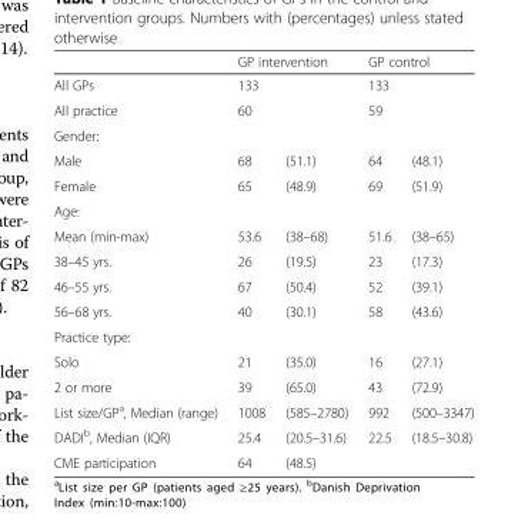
<table><thead><tr><td rowspan="2">All GPs</td><td colspan="2">GP intervention</td><td colspan="2">GP control</td></tr><tr><td>133</td><td></td><td>133</td><td></td></tr></thead><tbody><tr><td>All practice</td><td>60</td><td></td><td>59</td><td></td></tr><tr><td colspan="5">Gender:</td></tr><tr><td>Male</td><td>68</td><td>(51.1)</td><td>64</td><td>(48.1)</td></tr><tr><td>Female</td><td>65</td><td>(48.9)</td><td>69</td><td>(51.9)</td></tr><tr><td colspan="5">Age:</td></tr><tr><td>Mean (min-max)</td><td>53.6</td><td>(38–68)</td><td>51.6</td><td>(38–65)</td></tr><tr><td>38–45 yrs.</td><td>26</td><td>(19.5)</td><td>23</td><td>(17.3)</td></tr><tr><td>46–55 yrs.</td><td>67</td><td>(50.4)</td><td>52</td><td>(39.1)</td></tr><tr><td>56–68 yrs.</td><td>40</td><td>(30.1)</td><td>58</td><td>(43.6)</td></tr><tr><td colspan="5">Practice type:</td></tr><tr><td>Solo</td><td>21</td><td>(35.0)</td><td>16</td><td>(27.1)</td></tr><tr><td>2 or more</td><td>39</td><td>(65.0)</td><td>43</td><td>(72.9)</td></tr><tr><td>List size/GP<sup>a</sup>, Median (range)</td><td>1008</td><td>(585–2780)</td><td>992</td><td>(500–3347)</td></tr><tr><td>DADI<sup>b</sup>, Median (IQR)</td><td>25.4</td><td>(20.5–31.6)</td><td>22.5</td><td>(18.5–30.8)</td></tr><tr><td>CME participation</td><td>64</td><td>(48.5)</td><td></td><td></td></tr></tbody></table>